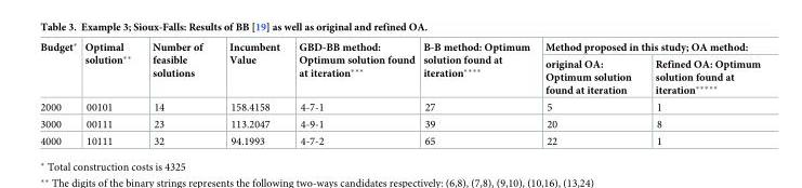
<table><thead><tr><td rowspan="2">Budget*</td><td rowspan="2">Optimal solution**</td><td rowspan="2">Number of feasible solutions</td><td rowspan="2">Incumbent Value</td><td rowspan="2">GBD-BB method: Optimum solution found at iteration***</td><td rowspan="2">B-B method: Optimum solution found at iteration****</td><td colspan="2">Method proposed in this study; OA method:</td></tr><tr><td>original OA: Optimum solution found at iteration</td><td>Refined OA: Optimum solution found at iteration*****</td></tr></thead><tbody><tr><td>2000</td><td>00101</td><td>14</td><td>158.4158</td><td>4-7-1</td><td>27</td><td>5</td><td>1</td></tr><tr><td>3000</td><td>00111</td><td>23</td><td>113.2047</td><td>4-9-1</td><td>39</td><td>20</td><td>8</td></tr><tr><td>4000</td><td>10111</td><td>32</td><td>94.1993</td><td>4-7-2</td><td>65</td><td>22</td><td>1</td></tr></tbody></table>